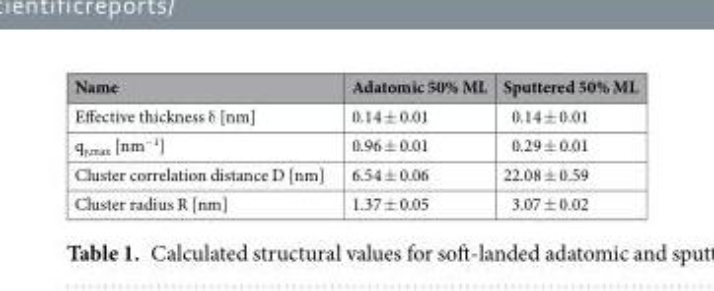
<table><thead><tr><td>Name</td><td>Adatomic 50% ML</td><td>Sputtered 50% ML</td></tr></thead><tbody><tr><td>Effective thickness δ [nm]</td><td>0.14 ± 0.01</td><td>0.14 ± 0.01</td></tr><tr><td>q<sub>y,max</sub> [nm<sup>−1</sup>]</td><td>0.96 ± 0.01</td><td>0.29 ± 0.01</td></tr><tr><td>Cluster correlation distance D [nm]</td><td>6.54 ± 0.06</td><td>22.08 ± 0.59</td></tr><tr><td>Cluster radius R [nm]</td><td>1.37 ± 0.05</td><td>3.07 ± 0.02</td></tr></tbody></table>